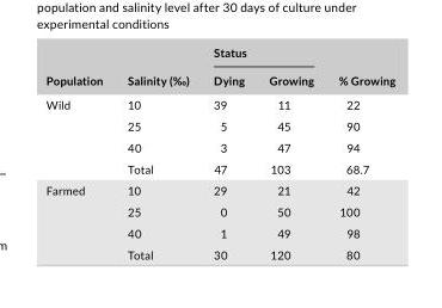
<table><thead><tr><td rowspan="2">Population</td><td rowspan="2">Salinity (‰)</td><td colspan="2">Status</td><td rowspan="2">% Growing</td></tr><tr><td>Dying</td><td>Growing</td></tr></thead><tbody><tr><td rowspan="4">Wild</td><td>10</td><td>39</td><td>11</td><td>22</td></tr><tr><td>25</td><td>5</td><td>45</td><td>90</td></tr><tr><td>40</td><td>3</td><td>47</td><td>94</td></tr><tr><td>Total</td><td>47</td><td>103</td><td>68.7</td></tr><tr><td rowspan="4">Farmed</td><td>10</td><td>29</td><td>21</td><td>42</td></tr><tr><td>25</td><td>0</td><td>50</td><td>100</td></tr><tr><td>40</td><td>1</td><td>49</td><td>98</td></tr><tr><td>Total</td><td>30</td><td>120</td><td>80</td></tr></tbody></table>